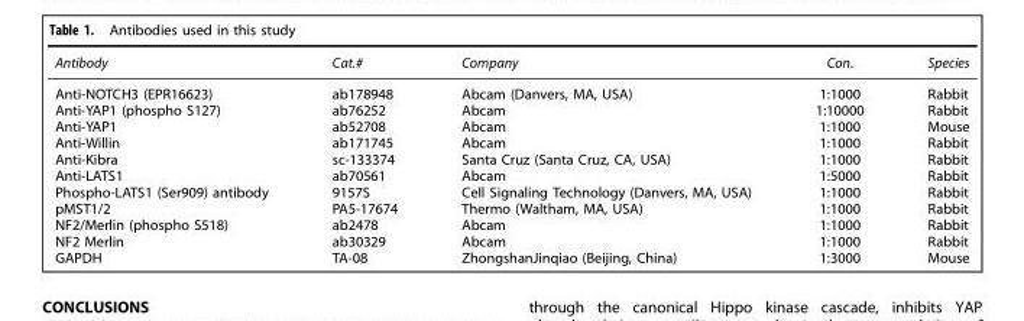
<table><thead><tr><td>Antibody</td><td>Cat.#</td><td>Company</td><td>Con.</td><td>Species</td></tr></thead><tbody><tr><td>Anti-NOTCH3 (EPR16623)</td><td>ab178948</td><td>Abcam (Danvers, MA, USA)</td><td>1:1000</td><td>Rabbit</td></tr><tr><td>Anti-YAP1 (phospho S127)</td><td>ab76252</td><td>Abcam</td><td>1:10000</td><td>Rabbit</td></tr><tr><td>Anti-YAP1</td><td>ab52708</td><td>Abcam</td><td>1:1000</td><td>Mouse</td></tr><tr><td>Anti-Willin</td><td>ab171745</td><td>Abcam</td><td>1:1000</td><td>Rabbit</td></tr><tr><td>Anti-Kibra</td><td>sc-133374</td><td>Santa Cruz (Santa Cruz, CA, USA)</td><td>1:1000</td><td>Rabbit</td></tr><tr><td>Anti-LATS1</td><td>ab70561</td><td>Abcam</td><td>1:5000</td><td>Rabbit</td></tr><tr><td>Phospho-LATS1 (Ser909) antibody</td><td>9157S</td><td>Cell Signaling Technology (Danvers, MA, USA)</td><td>1:1000</td><td>Rabbit</td></tr><tr><td>pMST1/2</td><td>PA5-17674</td><td>Thermo (Waltham, MA, USA)</td><td>1:1000</td><td>Rabbit</td></tr><tr><td>NF2/Merlin (phospho S518)</td><td>ab2478</td><td>Abcam</td><td>1:1000</td><td>Rabbit</td></tr><tr><td>NF2 Merlin</td><td>ab30329</td><td>Abcam</td><td>1:1000</td><td>Rabbit</td></tr><tr><td>GAPDH</td><td>TA-08</td><td>ZhongshanJinqiao (Beijing, China)</td><td>1:3000</td><td>Mouse</td></tr></tbody></table>